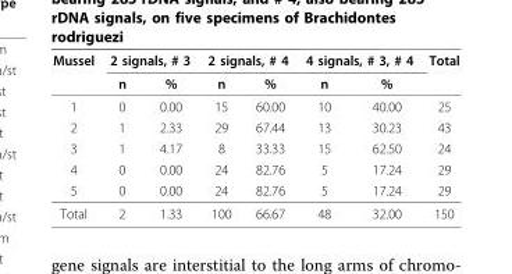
<table><thead><tr><td rowspan="2">Mussel</td><td colspan="2">2 signals, # 3</td><td colspan="2">2 signals, # 4</td><td colspan="2">4 signals, # 3, # 4</td><td rowspan="2">Total</td></tr><tr><td>n</td><td>%</td><td>n</td><td>%</td><td>n</td><td>%</td></tr></thead><tbody><tr><td>1</td><td>0</td><td>0.00</td><td>15</td><td>60.00</td><td>10</td><td>40.00</td><td>25</td></tr><tr><td>2</td><td>1</td><td>2.33</td><td>29</td><td>67.44</td><td>13</td><td>30.23</td><td>43</td></tr><tr><td>3</td><td>1</td><td>4.17</td><td>8</td><td>33.33</td><td>15</td><td>62.50</td><td>24</td></tr><tr><td>4</td><td>0</td><td>0.00</td><td>24</td><td>82.76</td><td>5</td><td>17.24</td><td>29</td></tr><tr><td>5</td><td>0</td><td>0.00</td><td>24</td><td>82.76</td><td>5</td><td>17.24</td><td>29</td></tr><tr><td>Total</td><td>2</td><td>1.33</td><td>100</td><td>66.67</td><td>48</td><td>32.00</td><td>150</td></tr></tbody></table>